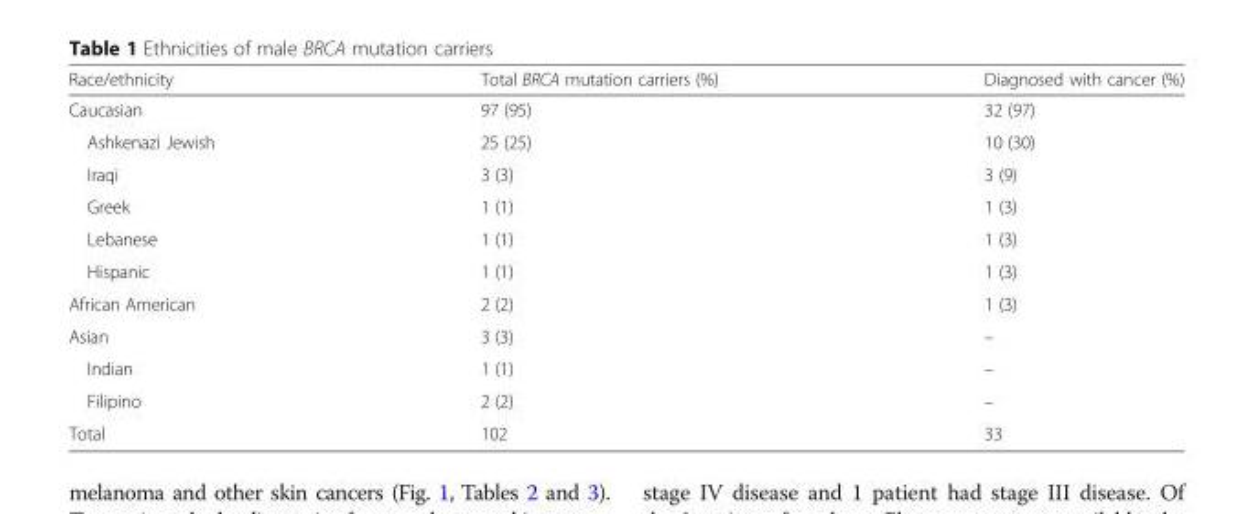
<table><thead><tr><td>Race/ethnicity</td><td>Total BRCA mutation carriers (%)</td><td>Diagnosed with cancer (%)</td></tr></thead><tbody><tr><td>Caucasian</td><td>97 (95)</td><td>32 (97)</td></tr><tr><td>Ashkenazi Jewish</td><td>25 (25)</td><td>10 (30)</td></tr><tr><td>Iraqi</td><td>3 (3)</td><td>3 (9)</td></tr><tr><td>Greek</td><td>1 (1)</td><td>1 (3)</td></tr><tr><td>Lebanese</td><td>1 (1)</td><td>1 (3)</td></tr><tr><td>Hispanic</td><td>1 (1)</td><td>1 (3)</td></tr><tr><td>African American</td><td>2 (2)</td><td>1 (3)</td></tr><tr><td>Asian</td><td>3 (3)</td><td>–</td></tr><tr><td>Indian</td><td>1 (1)</td><td>–</td></tr><tr><td>Filipino</td><td>2 (2)</td><td>–</td></tr><tr><td>Total</td><td>102</td><td>33</td></tr></tbody></table>